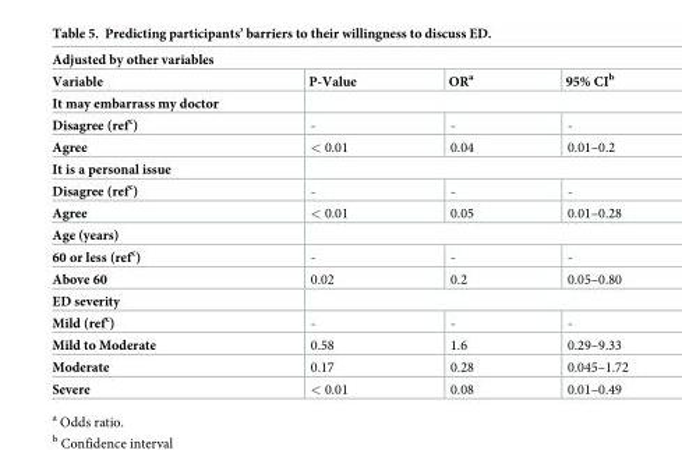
<table><thead><tr><td colspan="4">Adjusted by other variables</td></tr><tr><td>Variable</td><td>P-Value</td><td>OR<sup>a</sup></td><td>95% CI<sup>b</sup></td></tr></thead><tbody><tr><td colspan="4">It may embarrass my doctor</td></tr><tr><td>Disagree (ref<sup>c</sup>)</td><td>-</td><td>-</td><td>-</td></tr><tr><td>Agree</td><td>&lt; 0.01</td><td>0.04</td><td>0.01–0.2</td></tr><tr><td colspan="4">It is a personal issue</td></tr><tr><td>Disagree (ref<sup>c</sup>)</td><td>-</td><td>-</td><td>-</td></tr><tr><td>Agree</td><td>&lt; 0.01</td><td>0.05</td><td>0.01–0.28</td></tr><tr><td colspan="4">Age (years)</td></tr><tr><td>60 or less (ref<sup>c</sup>)</td><td>-</td><td>-</td><td>-</td></tr><tr><td>Above 60</td><td>0.02</td><td>0.2</td><td>0.05–0.80</td></tr><tr><td colspan="4">ED severity</td></tr><tr><td>Mild (ref<sup>c</sup>)</td><td>-</td><td>-</td><td>-</td></tr><tr><td>Mild to Moderate</td><td>0.58</td><td>1.6</td><td>0.29–9.33</td></tr><tr><td>Moderate</td><td>0.17</td><td>0.28</td><td>0.045–1.72</td></tr><tr><td>Severe</td><td>&lt; 0.01</td><td>0.08</td><td>0.01–0.49</td></tr></tbody></table>